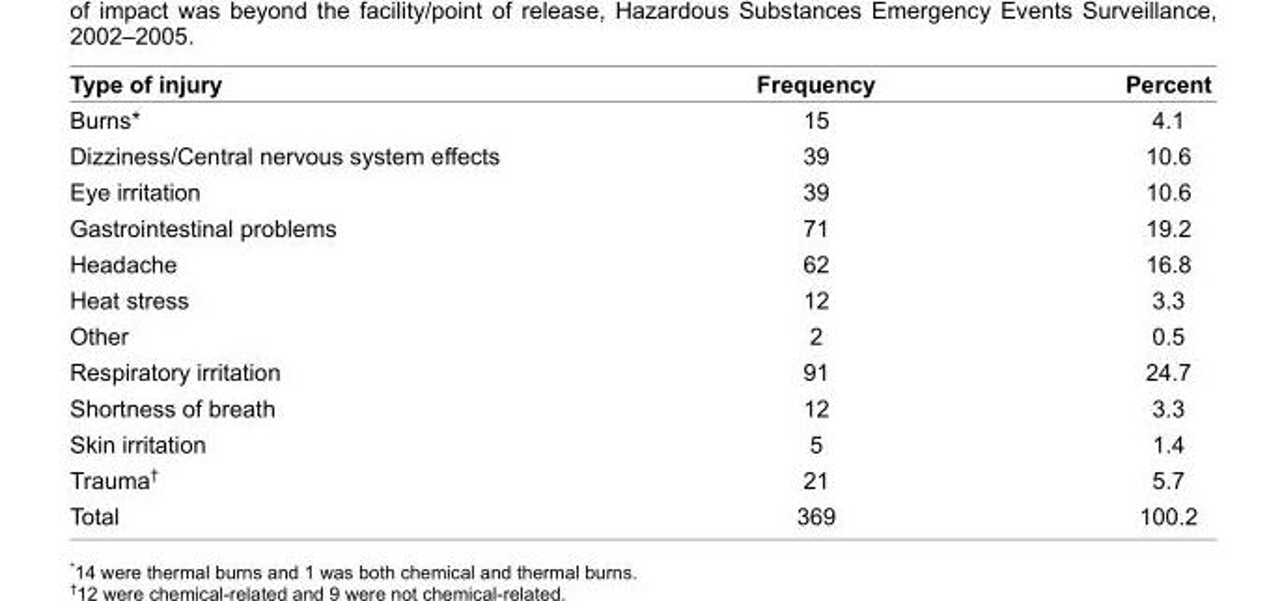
<table><thead><tr><td>Type of injury</td><td>Frequency</td><td>Percent</td></tr></thead><tbody><tr><td>Burns*</td><td>15</td><td>4.1</td></tr><tr><td>Dizziness/Central nervous system effects</td><td>39</td><td>10.6</td></tr><tr><td>Eye irritation</td><td>39</td><td>10.6</td></tr><tr><td>Gastrointestinal problems</td><td>71</td><td>19.2</td></tr><tr><td>Headache</td><td>62</td><td>16.8</td></tr><tr><td>Heat stress</td><td>12</td><td>3.3</td></tr><tr><td>Other</td><td>2</td><td>0.5</td></tr><tr><td>Respiratory irritation</td><td>91</td><td>24.7</td></tr><tr><td>Shortness of breath</td><td>12</td><td>3.3</td></tr><tr><td>Skin irritation</td><td>5</td><td>1.4</td></tr><tr><td>Trauma<sup>†</sup></td><td>21</td><td>5.7</td></tr><tr><td>Total</td><td>369</td><td>100.2</td></tr></tbody></table>